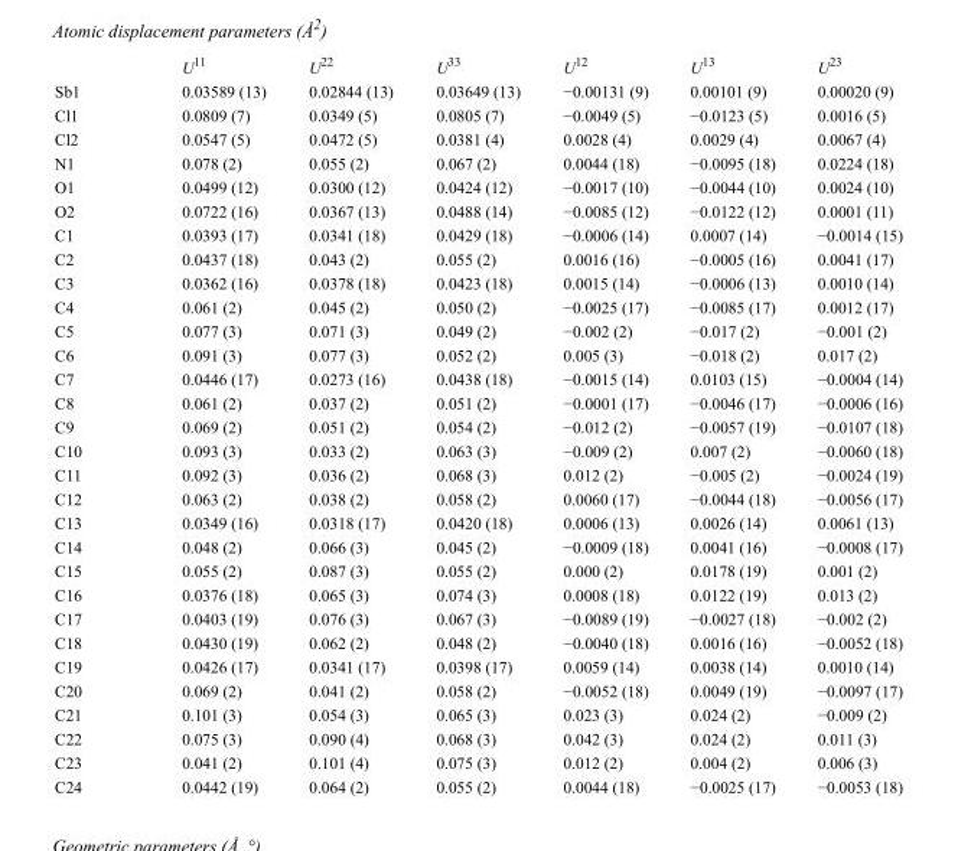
<table><thead><tr><td></td><td>U<sup>11</sup></td><td>U<sup>22</sup></td><td>U<sup>33</sup></td><td>U<sup>12</sup></td><td>U<sup>13</sup></td><td>U<sup>23</sup></td></tr></thead><tbody><tr><td>Sb1</td><td>0.03589 (13)</td><td>0.02844 (13)</td><td>0.03649 (13)</td><td>−0.00131 (9)</td><td>0.00101 (9)</td><td>0.00020 (9)</td></tr><tr><td>Cl1</td><td>0.0809 (7)</td><td>0.0349 (5)</td><td>0.0805 (7)</td><td>−0.0049 (5)</td><td>−0.0123 (5)</td><td>0.0016 (5)</td></tr><tr><td>Cl2</td><td>0.0547 (5)</td><td>0.0472 (5)</td><td>0.0381 (4)</td><td>0.0028 (4)</td><td>0.0029 (4)</td><td>0.0067 (4)</td></tr><tr><td>N1</td><td>0.078 (2)</td><td>0.055 (2)</td><td>0.067 (2)</td><td>0.0044 (18)</td><td>−0.0095 (18)</td><td>0.0224 (18)</td></tr><tr><td>O1</td><td>0.0499 (12)</td><td>0.0300 (12)</td><td>0.0424 (12)</td><td>−0.0017 (10)</td><td>−0.0044 (10)</td><td>0.0024 (10)</td></tr><tr><td>O2</td><td>0.0722 (16)</td><td>0.0367 (13)</td><td>0.0488 (14)</td><td>−0.0085 (12)</td><td>−0.0122 (12)</td><td>0.0001 (11)</td></tr><tr><td>C1</td><td>0.0393 (17)</td><td>0.0341 (18)</td><td>0.0429 (18)</td><td>−0.0006 (14)</td><td>0.0007 (14)</td><td>−0.0014 (15)</td></tr><tr><td>C2</td><td>0.0437 (18)</td><td>0.043 (2)</td><td>0.055 (2)</td><td>0.0016 (16)</td><td>−0.0005 (16)</td><td>0.0041 (17)</td></tr><tr><td>C3</td><td>0.0362 (16)</td><td>0.0378 (18)</td><td>0.0423 (18)</td><td>0.0015 (14)</td><td>−0.0006 (13)</td><td>0.0010 (14)</td></tr><tr><td>C4</td><td>0.061 (2)</td><td>0.045 (2)</td><td>0.050 (2)</td><td>−0.0025 (17)</td><td>−0.0085 (17)</td><td>0.0012 (17)</td></tr><tr><td>C5</td><td>0.077 (3)</td><td>0.071 (3)</td><td>0.049 (2)</td><td>−0.002 (2)</td><td>−0.017 (2)</td><td>−0.001 (2)</td></tr><tr><td>C6</td><td>0.091 (3)</td><td>0.077 (3)</td><td>0.052 (2)</td><td>0.005 (3)</td><td>−0.018 (2)</td><td>0.017 (2)</td></tr><tr><td>C7</td><td>0.0446 (17)</td><td>0.0273 (16)</td><td>0.0438 (18)</td><td>−0.0015 (14)</td><td>0.0103 (15)</td><td>−0.0004 (14)</td></tr><tr><td>C8</td><td>0.061 (2)</td><td>0.037 (2)</td><td>0.051 (2)</td><td>−0.0001 (17)</td><td>−0.0046 (17)</td><td>−0.0006 (16)</td></tr><tr><td>C9</td><td>0.069 (2)</td><td>0.051 (2)</td><td>0.054 (2)</td><td>−0.012 (2)</td><td>−0.0057 (19)</td><td>−0.0107 (18)</td></tr><tr><td>C10</td><td>0.093 (3)</td><td>0.033 (2)</td><td>0.063 (3)</td><td>−0.009 (2)</td><td>0.007 (2)</td><td>−0.0060 (18)</td></tr><tr><td>C11</td><td>0.092 (3)</td><td>0.036 (2)</td><td>0.068 (3)</td><td>0.012 (2)</td><td>−0.005 (2)</td><td>−0.0024 (19)</td></tr><tr><td>C12</td><td>0.063 (2)</td><td>0.038 (2)</td><td>0.058 (2)</td><td>0.0060 (17)</td><td>−0.0044 (18)</td><td>−0.0056 (17)</td></tr><tr><td>C13</td><td>0.0349 (16)</td><td>0.0318 (17)</td><td>0.0420 (18)</td><td>0.0006 (13)</td><td>0.0026 (14)</td><td>0.0061 (13)</td></tr><tr><td>C14</td><td>0.048 (2)</td><td>0.066 (3)</td><td>0.045 (2)</td><td>−0.0009 (18)</td><td>0.0041 (16)</td><td>−0.0008 (17)</td></tr><tr><td>C15</td><td>0.055 (2)</td><td>0.087 (3)</td><td>0.055 (2)</td><td>0.000 (2)</td><td>0.0178 (19)</td><td>0.001 (2)</td></tr><tr><td>C16</td><td>0.0376 (18)</td><td>0.065 (3)</td><td>0.074 (3)</td><td>0.0008 (18)</td><td>0.0122 (19)</td><td>0.013 (2)</td></tr><tr><td>C17</td><td>0.0403 (19)</td><td>0.076 (3)</td><td>0.067 (3)</td><td>−0.0089 (19)</td><td>−0.0027 (18)</td><td>−0.002 (2)</td></tr><tr><td>C18</td><td>0.0430 (19)</td><td>0.062 (2)</td><td>0.048 (2)</td><td>−0.0040 (18)</td><td>0.0016 (16)</td><td>−0.0052 (18)</td></tr><tr><td>C19</td><td>0.0426 (17)</td><td>0.0341 (17)</td><td>0.0398 (17)</td><td>0.0059 (14)</td><td>0.0038 (14)</td><td>0.0010 (14)</td></tr><tr><td>C20</td><td>0.069 (2)</td><td>0.041 (2)</td><td>0.058 (2)</td><td>−0.0052 (18)</td><td>0.0049 (19)</td><td>−0.0097 (17)</td></tr><tr><td>C21</td><td>0.101 (3)</td><td>0.054 (3)</td><td>0.065 (3)</td><td>0.023 (3)</td><td>0.024 (2)</td><td>−0.009 (2)</td></tr><tr><td>C22</td><td>0.075 (3)</td><td>0.090 (4)</td><td>0.068 (3)</td><td>0.042 (3)</td><td>0.024 (2)</td><td>0.011 (3)</td></tr><tr><td>C23</td><td>0.041 (2)</td><td>0.101 (4)</td><td>0.075 (3)</td><td>0.012 (2)</td><td>0.004 (2)</td><td>0.006 (3)</td></tr><tr><td>C24</td><td>0.0442 (19)</td><td>0.064 (2)</td><td>0.055 (2)</td><td>0.0044 (18)</td><td>−0.0025 (17)</td><td>−0.0053 (18)</td></tr></tbody></table>